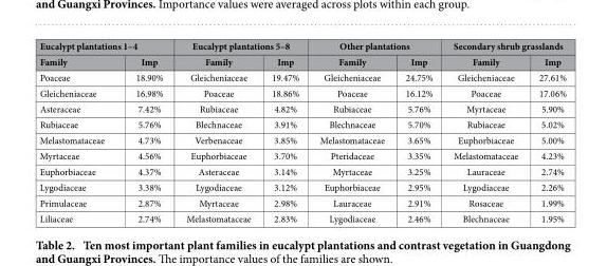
<table><thead><tr><td colspan="2">Eucalypt plantations 1–4</td><td colspan="2">Eucalypt plantations 5–8</td><td colspan="2">Other plantations</td><td colspan="2">Secondary shrub grasslands</td></tr><tr><td>Family</td><td>Imp</td><td>Family</td><td>Imp</td><td>Family</td><td>Imp</td><td>Family</td><td>Imp</td></tr></thead><tbody><tr><td>Poaceae</td><td>18.90%</td><td>Gleicheniaceae</td><td>19.47%</td><td>Gleicheniaceae</td><td>24.75%</td><td>Gleicheniaceae</td><td>27.61%</td></tr><tr><td>Gleicheniaceae</td><td>16.98%</td><td>Poaceae</td><td>18.86%</td><td>Poaceae</td><td>16.12%</td><td>Poaceae</td><td>17.06%</td></tr><tr><td>Asteraceae</td><td>7.42%</td><td>Rubiaceae</td><td>4.82%</td><td>Rubiaceae</td><td>5.76%</td><td>Myrtaceae</td><td>5.90%</td></tr><tr><td>Rubiaceae</td><td>5.76%</td><td>Blechnaceae</td><td>3.91%</td><td>Blechnaceae</td><td>5.70%</td><td>Rubiaceae</td><td>5.02%</td></tr><tr><td>Melastomataceae</td><td>4.73%</td><td>Verbenaceae</td><td>3.85%</td><td>Melastomataceae</td><td>3.65%</td><td>Euphorbiaceae</td><td>5.00%</td></tr><tr><td>Myrtaceae</td><td>4.56%</td><td>Euphorbiaceae</td><td>3.70%</td><td>Pteridaceae</td><td>3.35%</td><td>Melastomataceae</td><td>4.23%</td></tr><tr><td>Euphorbiaceae</td><td>4.37%</td><td>Asteraceae</td><td>3.14%</td><td>Myrtaceae</td><td>3.25%</td><td>Lauraceae</td><td>2.74%</td></tr><tr><td>Lygodiaceae</td><td>3.38%</td><td>Lygodiaceae</td><td>3.12%</td><td>Euphorbiaceae</td><td>2.95%</td><td>Lygodiaceae</td><td>2.26%</td></tr><tr><td>Primulaceae</td><td>2.87%</td><td>Myrtaceae</td><td>2.98%</td><td>Lauraceae</td><td>2.91%</td><td>Rosaceae</td><td>1.99%</td></tr><tr><td>Liliaceae</td><td>2.74%</td><td>Melastomataceae</td><td>2.83%</td><td>Lygodiaceae</td><td>2.46%</td><td>Blechnaceae</td><td>1.95%</td></tr></tbody></table>